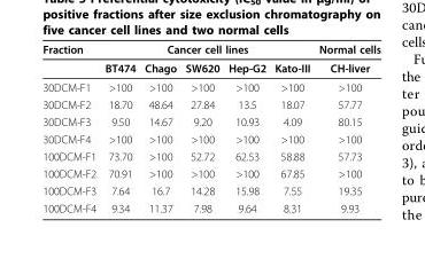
<table><thead><tr><td rowspan="2">Fraction</td><td colspan="5">Cancer cell lines</td><td rowspan="2">Normal cells CH-liver</td></tr><tr><td>BT474</td><td>Chago</td><td>SW620</td><td>Hep-G2</td><td>Kato-III</td></tr></thead><tbody><tr><td>30DCM-F1</td><td>&gt;100</td><td>&gt;100</td><td>&gt;100</td><td>&gt;100</td><td>&gt;100</td><td>&gt;100</td></tr><tr><td>30DCM-F2</td><td>18.70</td><td>48.64</td><td>27.84</td><td>13.5</td><td>18.07</td><td>57.77</td></tr><tr><td>30DCM-F3</td><td>9.50</td><td>14.67</td><td>9.20</td><td>10.93</td><td>4.09</td><td>80.15</td></tr><tr><td>30DCM-F4</td><td>&gt;100</td><td>&gt;100</td><td>&gt;100</td><td>&gt;100</td><td>&gt;100</td><td>&gt;100</td></tr><tr><td>100DCM-F1</td><td>73.70</td><td>&gt;100</td><td>52.72</td><td>62.53</td><td>58.88</td><td>57.73</td></tr><tr><td>100DCM-F2</td><td>70.91</td><td>&gt;100</td><td>&gt;100</td><td>&gt;100</td><td>67.85</td><td>&gt;100</td></tr><tr><td>100DCM-F3</td><td>7.64</td><td>16.7</td><td>14.28</td><td>15.98</td><td>7.55</td><td>19.35</td></tr><tr><td>100DCM-F4</td><td>9.34</td><td>11.37</td><td>7.98</td><td>9.64</td><td>8.31</td><td>9.93</td></tr></tbody></table>